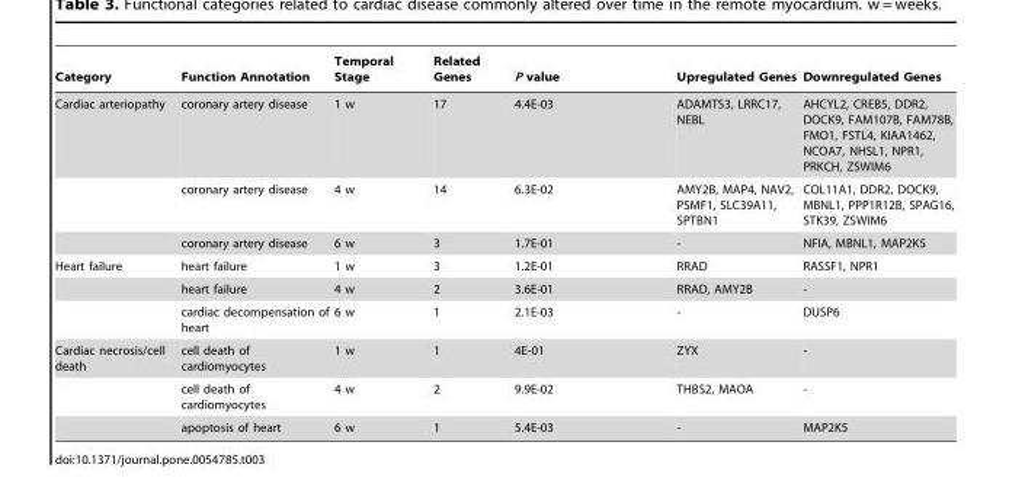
<table><thead><tr><td>Category</td><td>Function Annotation</td><td>Temporal Stage</td><td>Related Genes</td><td>P value</td><td>Upregulated Genes</td><td>Downregulated Genes</td></tr></thead><tbody><tr><td rowspan="3">Cardiac arteriopathy</td><td>coronary artery disease</td><td>1 w</td><td>17</td><td>4.4E-03</td><td>ADAMTS3, LRRC17, NEBL</td><td>AHCYL2, CREB5, DDR2, DOCK9, FAM107B, FAM78B, FMO1, FSTL4, KIAA1462, NCOA7, NHSL1, NPR1, PRKCH, ZSWIM6</td></tr><tr><td>coronary artery disease</td><td>4 w</td><td>14</td><td>6.3E-02</td><td>AMY2B, MAP4, NAV2, PSMF1, SLC39A11, SPTBN1</td><td>COL11A1, DDR2, DOCK9, MBNL1, PPP1R12B, SPAG16, STK39, ZSWIM6</td></tr><tr><td>coronary artery disease</td><td>6 w</td><td>3</td><td>1.7E-01</td><td>-</td><td>NFIA, MBNL1, MAP2K5</td></tr><tr><td rowspan="3">Heart failure</td><td>heart failure</td><td>1 w</td><td>3</td><td>1.2E-01</td><td>RRAD</td><td>RASSF1, NPR1</td></tr><tr><td>heart failure</td><td>4 w</td><td>2</td><td>3.6E-01</td><td>RRAD, AMY2B</td><td>-</td></tr><tr><td>cardiac decompensation of heart</td><td>6 w</td><td>1</td><td>2.1E-03</td><td>-</td><td>DUSP6</td></tr><tr><td rowspan="3">Cardiac necrosis/cell death</td><td>cell death of cardiomyocytes</td><td>1 w</td><td>1</td><td>4E-01</td><td>ZYX</td><td>-</td></tr><tr><td>cell death of cardiomyocytes</td><td>4 w</td><td>2</td><td>9.9E-02</td><td>THBS2, MAOA</td><td>-</td></tr><tr><td>apoptosis of heart</td><td>6 w</td><td>1</td><td>5.4E-03</td><td>-</td><td>MAP2K5</td></tr></tbody></table>